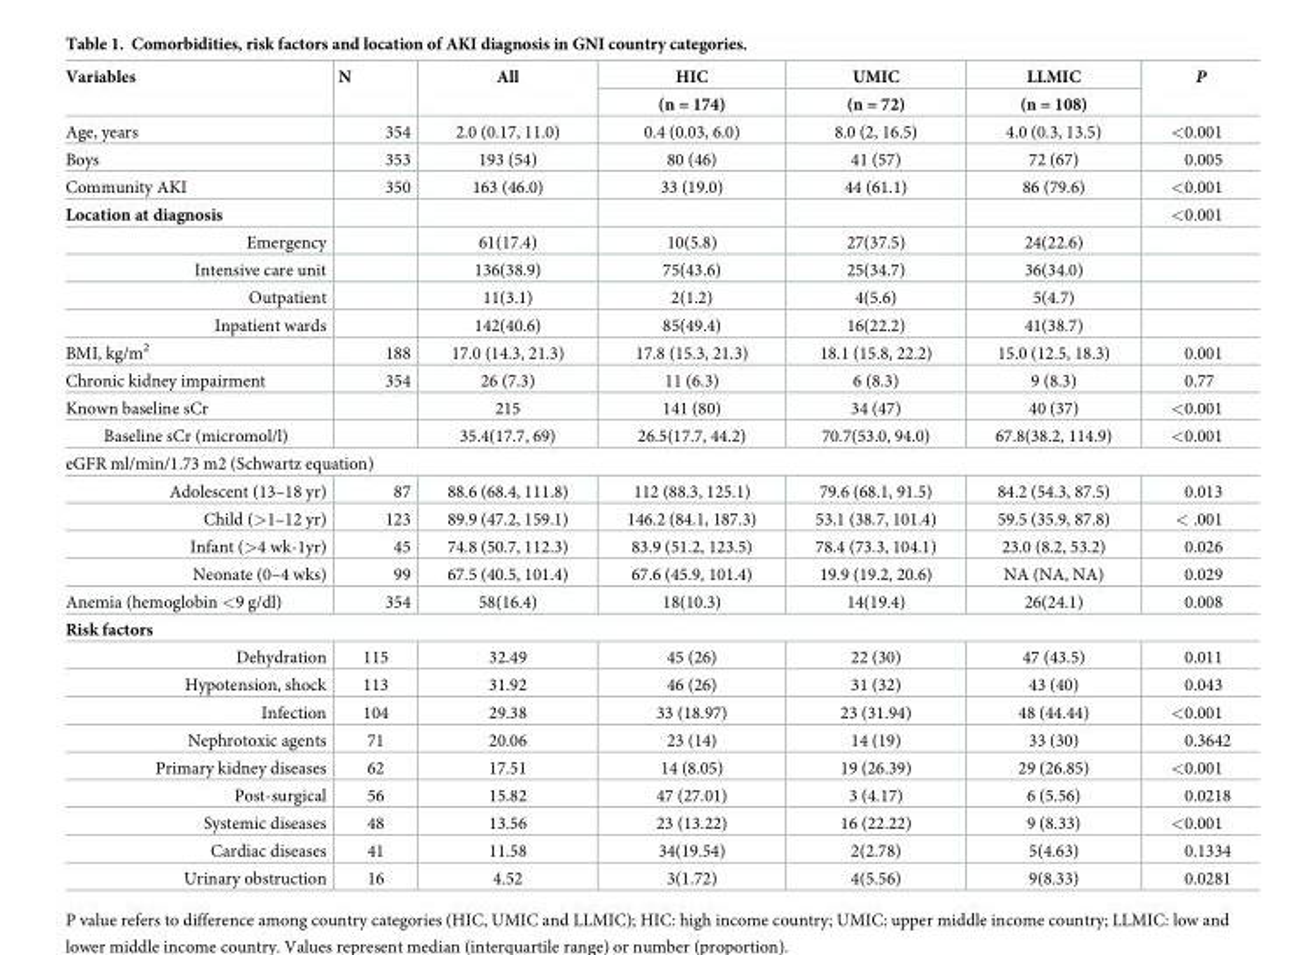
<table><thead><tr><td rowspan="2">Variables</td><td rowspan="2">N</td><td rowspan="2">All</td><td rowspan="2">HIC (n = 174)</td><td rowspan="2">UMIC (n = 72)</td><td rowspan="2">LLMIC (n = 108)</td><td rowspan="2">P</td></tr><tr></tr></thead><tbody><tr><td>Age, years</td><td>354</td><td>2.0 (0.17, 11.0)</td><td>0.4 (0.03, 6.0)</td><td>8.0 (2, 16.5)</td><td>4.0 (0.3, 13.5)</td><td>&lt;0.001</td></tr><tr><td>Boys</td><td>353</td><td>193 (54)</td><td>80 (46)</td><td>41 (57)</td><td>72 (67)</td><td>0.005</td></tr><tr><td>Community AKI</td><td>350</td><td>163 (46.0)</td><td>33 (19.0)</td><td>44 (61.1)</td><td>86 (79.6)</td><td>&lt;0.001</td></tr><tr><td>Location at diagnosis</td><td></td><td></td><td></td><td></td><td></td><td>&lt;0.001</td></tr><tr><td>Emergency</td><td></td><td>61(17.4)</td><td>10(5.8)</td><td>27(37.5)</td><td>24(22.6)</td><td></td></tr><tr><td>Intensive care unit</td><td></td><td>136(38.9)</td><td>75(43.6)</td><td>25(34.7)</td><td>36(34.0)</td><td></td></tr><tr><td>Outpatient</td><td></td><td>11(3.1)</td><td>2(1.2)</td><td>4(5.6)</td><td>5(4.7)</td><td></td></tr><tr><td>Inpatient wards</td><td></td><td>142(40.6)</td><td>85(49.4)</td><td>16(22.2)</td><td>41(38.7)</td><td></td></tr><tr><td>BMI, kg/m<sup>2</sup></td><td>188</td><td>17.0 (14.3, 21.3)</td><td>17.8 (15.3, 21.3)</td><td>18.1 (15.8, 22.2)</td><td>15.0 (12.5, 18.3)</td><td>0.001</td></tr><tr><td>Chronic kidney impairment</td><td>354</td><td>26 (7.3)</td><td>11 (6.3)</td><td>6 (8.3)</td><td>9 (8.3)</td><td>0.77</td></tr><tr><td>Known baseline sCr</td><td></td><td>215</td><td>141 (80)</td><td>34 (47)</td><td>40 (37)</td><td>&lt;0.001</td></tr><tr><td>Baseline sCr (micromol/l)</td><td></td><td>35.4(17.7, 69)</td><td>26.5(17.7, 44.2)</td><td>70.7(53.0, 94.0)</td><td>67.8(38.2, 114.9)</td><td>&lt;0.001</td></tr><tr><td colspan="7">eGFR ml/min/1.73 m2 (Schwartz equation)</td></tr><tr><td>Adolescent (13–18 yr)</td><td>87</td><td>88.6 (68.4, 111.8)</td><td>112 (88.3, 125.1)</td><td>79.6 (68.1, 91.5)</td><td>84.2 (54.3, 87.5)</td><td>0.013</td></tr><tr><td>Child (&gt;1–12 yr)</td><td>123</td><td>89.9 (47.2, 159.1)</td><td>146.2 (84.1, 187.3)</td><td>53.1 (38.7, 101.4)</td><td>59.5 (35.9, 87.8)</td><td>&lt; .001</td></tr><tr><td>Infant (&gt;4 wk-1yr)</td><td>45</td><td>74.8 (50.7, 112.3)</td><td>83.9 (51.2, 123.5)</td><td>78.4 (73.3, 104.1)</td><td>23.0 (8.2, 53.2)</td><td>0.026</td></tr><tr><td>Neonate (0–4 wks)</td><td>99</td><td>67.5 (40.5, 101.4)</td><td>67.6 (45.9, 101.4)</td><td>19.9 (19.2, 20.6)</td><td>NA (NA, NA)</td><td>0.029</td></tr><tr><td>Anemia (hemoglobin &lt;9 g/dl)</td><td>354</td><td>58(16.4)</td><td>18(10.3)</td><td>14(19.4)</td><td>26(24.1)</td><td>0.008</td></tr><tr><td colspan="7">Risk factors</td></tr><tr><td>Dehydration</td><td>115</td><td>32.49</td><td>45 (26)</td><td>22 (30)</td><td>47 (43.5)</td><td>0.011</td></tr><tr><td>Hypotension, shock</td><td>113</td><td>31.92</td><td>46 (26)</td><td>31 (32)</td><td>43 (40)</td><td>0.043</td></tr><tr><td>Infection</td><td>104</td><td>29.38</td><td>33 (18.97)</td><td>23 (31.94)</td><td>48 (44.44)</td><td>&lt;0.001</td></tr><tr><td>Nephrotoxic agents</td><td>71</td><td>20.06</td><td>23 (14)</td><td>14 (19)</td><td>33 (30)</td><td>0.3642</td></tr><tr><td>Primary kidney diseases</td><td>62</td><td>17.51</td><td>14 (8.05)</td><td>19 (26.39)</td><td>29 (26.85)</td><td>&lt;0.001</td></tr><tr><td>Post-surgical</td><td>56</td><td>15.82</td><td>47 (27.01)</td><td>3 (4.17)</td><td>6 (5.56)</td><td>0.0218</td></tr><tr><td>Systemic diseases</td><td>48</td><td>13.56</td><td>23 (13.22)</td><td>16 (22.22)</td><td>9 (8.33)</td><td>&lt;0.001</td></tr><tr><td>Cardiac diseases</td><td>41</td><td>11.58</td><td>34(19.54)</td><td>2(2.78)</td><td>5(4.63)</td><td>0.1334</td></tr><tr><td>Urinary obstruction</td><td>16</td><td>4.52</td><td>3(1.72)</td><td>4(5.56)</td><td>9(8.33)</td><td>0.0281</td></tr></tbody></table>